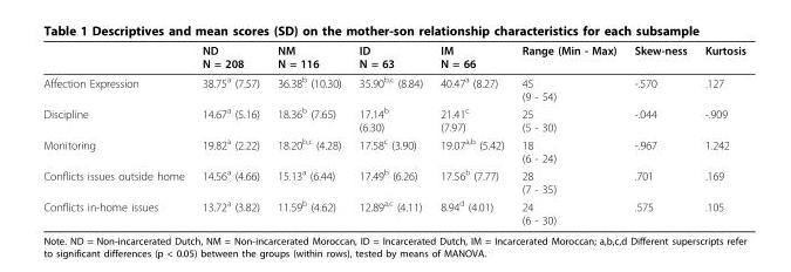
<table><thead><tr><td></td><td>ND N = 208</td><td>NM N = 116</td><td>ID N = 63</td><td>IM N = 66</td><td>Range (Min - Max)</td><td>Skew-ness</td><td>Kurtosis</td></tr></thead><tbody><tr><td>Affection Expression</td><td>38.75<sup>a</sup> (7.57)</td><td>36.38<sup>b</sup> (10.30)</td><td>35.90<sup>b,c</sup> (8.84)</td><td>40.47<sup>a</sup> (8.27)</td><td>45 (9 - 54)</td><td>-.570</td><td>.127</td></tr><tr><td>Discipline</td><td>14.67<sup>a</sup> (5.16)</td><td>18.36<sup>b</sup> (7.65)</td><td>17.14<sup>b</sup> (6.30)</td><td>21.41<sup>c</sup> (7.97)</td><td>25 (5 - 30)</td><td>-.044</td><td>-.909</td></tr><tr><td>Monitoring</td><td>19.82<sup>a</sup> (2.22)</td><td>18.20<sup>b,c</sup> (4.28)</td><td>17.58<sup>c</sup> (3.90)</td><td>19.07<sup>a,b</sup> (5.42)</td><td>18 (6 - 24)</td><td>-.967</td><td>1.242</td></tr><tr><td>Conflicts issues outside home</td><td>14.56<sup>a</sup> (4.66)</td><td>15.13<sup>a</sup> (6.44)</td><td>17.49<sup>b</sup> (6.26)</td><td>17.56<sup>b</sup> (7.77)</td><td>28 (7 - 35)</td><td>.701</td><td>.169</td></tr><tr><td>Conflicts in-home issues</td><td>13.72<sup>a</sup> (3.82)</td><td>11.59<sup>b</sup> (4.62)</td><td>12.89<sup>a,c</sup> (4.11)</td><td>8.94<sup>d</sup> (4.01)</td><td>24 (6 - 30)</td><td>.575</td><td>.105</td></tr></tbody></table>